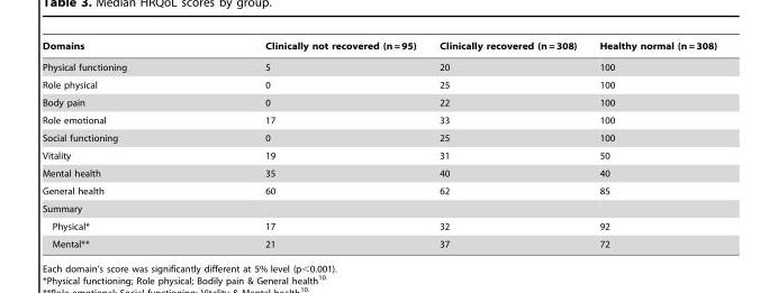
<table><thead><tr><td>Domains</td><td>Clinically not recovered (n = 95)</td><td>Clinically recovered (n = 308)</td><td>Healthy normal (n = 308)</td></tr></thead><tbody><tr><td>Physical functioning</td><td>5</td><td>20</td><td>100</td></tr><tr><td>Role physical</td><td>0</td><td>25</td><td>100</td></tr><tr><td>Body pain</td><td>0</td><td>22</td><td>100</td></tr><tr><td>Role emotional</td><td>17</td><td>33</td><td>100</td></tr><tr><td>Social functioning</td><td>0</td><td>25</td><td>100</td></tr><tr><td>Vitality</td><td>19</td><td>31</td><td>50</td></tr><tr><td>Mental health</td><td>35</td><td>40</td><td>40</td></tr><tr><td>General health</td><td>60</td><td>62</td><td>85</td></tr><tr><td colspan="4">Summary</td></tr><tr><td>Physical*</td><td>17</td><td>32</td><td>92</td></tr><tr><td>Mental**</td><td>21</td><td>37</td><td>72</td></tr></tbody></table>